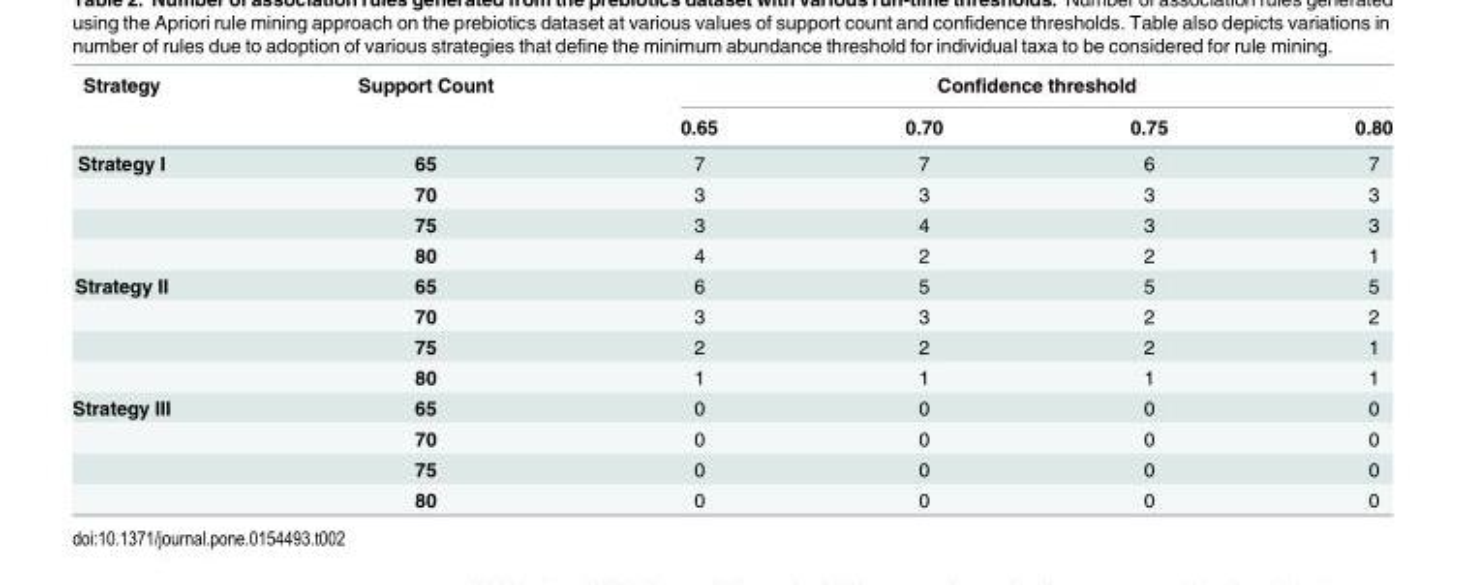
<table><thead><tr><td rowspan="2">Strategy</td><td rowspan="2">Support Count</td><td colspan="4">Confidence threshold</td></tr><tr><td>0.65</td><td>0.70</td><td>0.75</td><td>0.80</td></tr></thead><tbody><tr><td rowspan="4">Strategy I</td><td>65</td><td>7</td><td>7</td><td>6</td><td>7</td></tr><tr><td>70</td><td>3</td><td>3</td><td>3</td><td>3</td></tr><tr><td>75</td><td>3</td><td>4</td><td>3</td><td>3</td></tr><tr><td>80</td><td>4</td><td>2</td><td>2</td><td>1</td></tr><tr><td rowspan="4">Strategy II</td><td>65</td><td>6</td><td>5</td><td>5</td><td>5</td></tr><tr><td>70</td><td>3</td><td>3</td><td>2</td><td>2</td></tr><tr><td>75</td><td>2</td><td>2</td><td>2</td><td>1</td></tr><tr><td>80</td><td>1</td><td>1</td><td>1</td><td>1</td></tr><tr><td rowspan="4">Strategy III</td><td>65</td><td>0</td><td>0</td><td>0</td><td>0</td></tr><tr><td>70</td><td>0</td><td>0</td><td>0</td><td>0</td></tr><tr><td>75</td><td>0</td><td>0</td><td>0</td><td>0</td></tr><tr><td>80</td><td>0</td><td>0</td><td>0</td><td>0</td></tr></tbody></table>